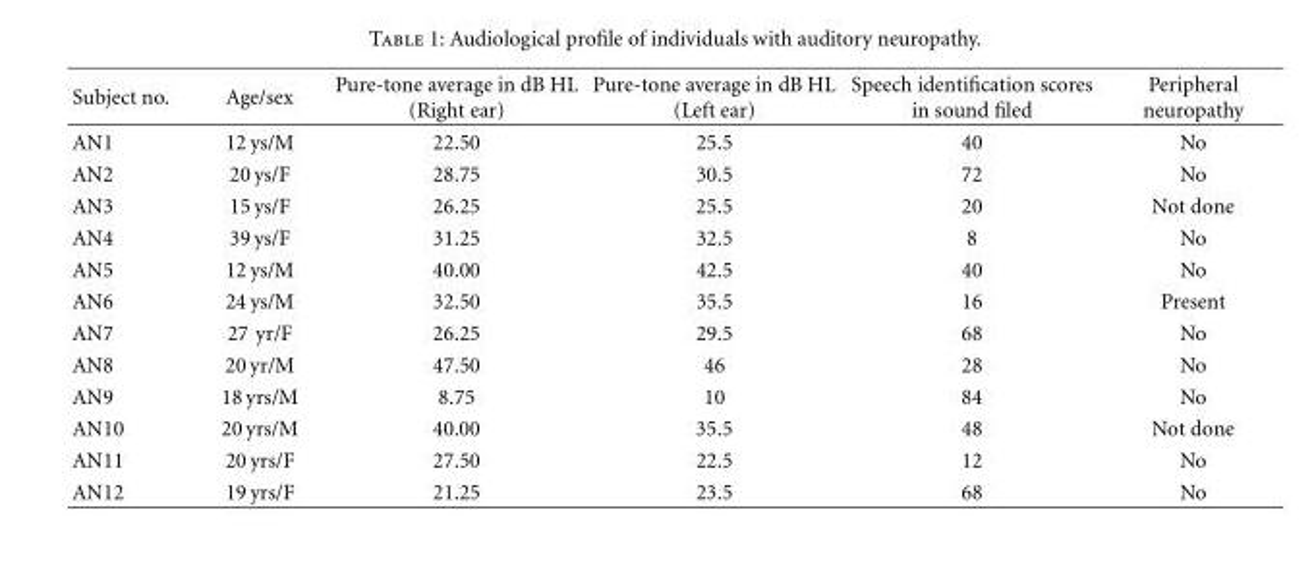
<table><thead><tr><td>Subject no.</td><td>Age/sex</td><td>Pure-tone average in dB HL (Right ear)</td><td>Pure-tone average in dB HL (Left ear)</td><td>Speech identification scores in sound filed</td><td>Peripheral neuropathy</td></tr></thead><tbody><tr><td>AN1</td><td>12 ys/M</td><td>22.50</td><td>25.5</td><td>40</td><td>No</td></tr><tr><td>AN2</td><td>20 ys/F</td><td>28.75</td><td>30.5</td><td>72</td><td>No</td></tr><tr><td>AN3</td><td>15 ys/F</td><td>26.25</td><td>25.5</td><td>20</td><td>Not done</td></tr><tr><td>AN4</td><td>39 ys/F</td><td>31.25</td><td>32.5</td><td>8</td><td>No</td></tr><tr><td>AN5</td><td>12 ys/M</td><td>40.00</td><td>42.5</td><td>40</td><td>No</td></tr><tr><td>AN6</td><td>24 ys/M</td><td>32.50</td><td>35.5</td><td>16</td><td>Present</td></tr><tr><td>AN7</td><td>27 yr/F</td><td>26.25</td><td>29.5</td><td>68</td><td>No</td></tr><tr><td>AN8</td><td>20 yr/M</td><td>47.50</td><td>46</td><td>28</td><td>No</td></tr><tr><td>AN9</td><td>18 yrs/M</td><td>8.75</td><td>10</td><td>84</td><td>No</td></tr><tr><td>AN10</td><td>20 yrs/M</td><td>40.00</td><td>35.5</td><td>48</td><td>Not done</td></tr><tr><td>AN11</td><td>20 yrs/F</td><td>27.50</td><td>22.5</td><td>12</td><td>No</td></tr><tr><td>AN12</td><td>19 yrs/F</td><td>21.25</td><td>23.5</td><td>68</td><td>No</td></tr></tbody></table>